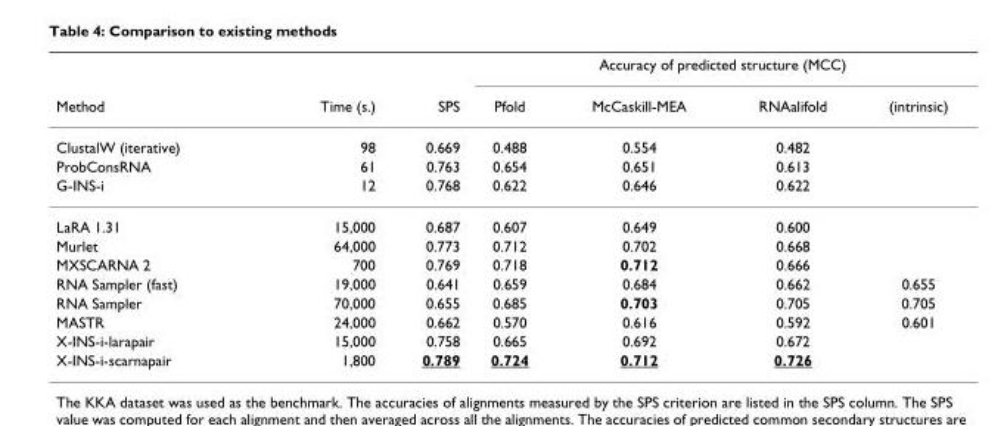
<table><thead><tr><td rowspan="2">Method</td><td rowspan="2">Time (s.)</td><td rowspan="2">SPS</td><td colspan="4">Accuracy of predicted structure (MCC)</td></tr><tr><td>Pfold</td><td>McCaskill-MEA</td><td>RNAalifold</td><td>(intrinsic)</td></tr></thead><tbody><tr><td>ClustalW (iterative)</td><td>98</td><td>0.669</td><td>0.488</td><td>0.554</td><td>0.482</td><td></td></tr><tr><td>ProbConsRNA</td><td>61</td><td>0.763</td><td>0.654</td><td>0.651</td><td>0.613</td><td></td></tr><tr><td>G-INS-i</td><td>12</td><td>0.768</td><td>0.622</td><td>0.646</td><td>0.622</td><td></td></tr><tr><td>LaRA 1.31</td><td>15,000</td><td>0.687</td><td>0.607</td><td>0.649</td><td>0.600</td><td></td></tr><tr><td>Murlet</td><td>64,000</td><td>0.773</td><td>0.712</td><td>0.702</td><td>0.668</td><td></td></tr><tr><td>MXSCARNA 2</td><td>700</td><td>0.769</td><td>0.718</td><td>0.712</td><td>0.666</td><td></td></tr><tr><td>RNA Sampler (fast)</td><td>19,000</td><td>0.641</td><td>0.659</td><td>0.684</td><td>0.662</td><td>0.655</td></tr><tr><td>RNA Sampler</td><td>70,000</td><td>0.655</td><td>0.685</td><td>0.703</td><td>0.705</td><td>0.705</td></tr><tr><td>MASTR</td><td>24,000</td><td>0.662</td><td>0.570</td><td>0.616</td><td>0.592</td><td>0.601</td></tr><tr><td>X-INS-i-larapair</td><td>15,000</td><td>0.758</td><td>0.665</td><td>0.692</td><td>0.672</td><td></td></tr><tr><td>X-INS-i-scarnapair</td><td>1,800</td><td>0.789</td><td>0.724</td><td>0.712</td><td>0.726</td><td></td></tr></tbody></table>